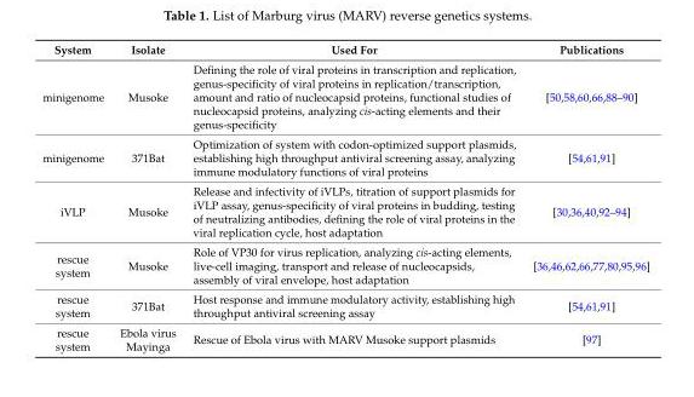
<table><thead><tr><td>System</td><td>Isolate</td><td>Used For</td><td>Publications</td></tr></thead><tbody><tr><td>minigenome</td><td>Musoke</td><td>Defining the role of viral proteins in transcription and replication, genus-specificity of viral proteins in replication/transcription, amount and ratio of nucleocapsid proteins, functional studies of nucleocapsid proteins, analyzing cis-acting elements and their genus-specificity</td><td>[50,58,60,66,88–90]</td></tr><tr><td>minigenome</td><td>371Bat</td><td>Optimization of system with codon-optimized support plasmids, establishing high throughput antiviral screening assay, analyzing immune modulatory functions of viral proteins</td><td>[54,61,91]</td></tr><tr><td>iVLP</td><td>Musoke</td><td>Release and infectivity of iVLPs, titration of support plasmids for iVLP assay, genus-specificity of viral proteins in budding, testing of neutralizing antibodies, defining the role of viral proteins in the viral replication cycle, host adaptation</td><td>[30,36,40,92–94]</td></tr><tr><td>rescue system</td><td>Musoke</td><td>Role of VP30 for virus replication, analyzing cis-acting elements, live-cell imaging, transport and release of nucleocapsids, assembly of viral envelope, host adaptation</td><td>[36,46,62,66,77,80,95,96]</td></tr><tr><td>rescue system</td><td>371Bat</td><td>Host response and immune modulatory activity, establishing high throughput antiviral screening assay</td><td>[54,61,91]</td></tr><tr><td>rescue system</td><td>Ebola virus Mayinga</td><td>Rescue of Ebola virus with MARV Musoke support plasmids</td><td>[97]</td></tr></tbody></table>